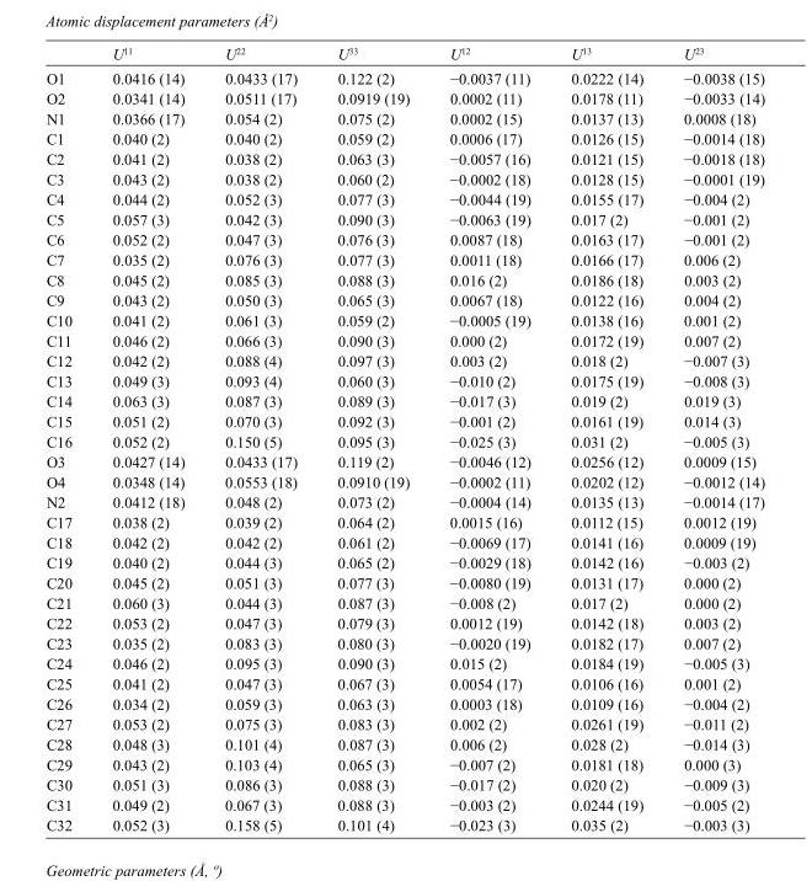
<table><thead><tr><td></td><td>U<sup>11</sup></td><td>U<sup>22</sup></td><td>U<sup>33</sup></td><td>U<sup>12</sup></td><td>U<sup>13</sup></td><td>U<sup>23</sup></td></tr></thead><tbody><tr><td>O1</td><td>0.0416 (14)</td><td>0.0433 (17)</td><td>0.122 (2)</td><td>−0.0037 (11)</td><td>0.0222 (14)</td><td>−0.0038 (15)</td></tr><tr><td>O2</td><td>0.0341 (14)</td><td>0.0511 (17)</td><td>0.0919 (19)</td><td>0.0002 (11)</td><td>0.0178 (11)</td><td>−0.0033 (14)</td></tr><tr><td>N1</td><td>0.0366 (17)</td><td>0.054 (2)</td><td>0.075 (2)</td><td>0.0002 (15)</td><td>0.0137 (13)</td><td>0.0008 (18)</td></tr><tr><td>C1</td><td>0.040 (2)</td><td>0.040 (2)</td><td>0.059 (2)</td><td>0.0006 (17)</td><td>0.0126 (15)</td><td>−0.0014 (18)</td></tr><tr><td>C2</td><td>0.041 (2)</td><td>0.038 (2)</td><td>0.063 (3)</td><td>−0.0057 (16)</td><td>0.0121 (15)</td><td>−0.0018 (18)</td></tr><tr><td>C3</td><td>0.043 (2)</td><td>0.038 (2)</td><td>0.060 (2)</td><td>−0.0002 (18)</td><td>0.0128 (15)</td><td>−0.0001 (19)</td></tr><tr><td>C4</td><td>0.044 (2)</td><td>0.052 (3)</td><td>0.077 (3)</td><td>−0.0044 (19)</td><td>0.0155 (17)</td><td>−0.004 (2)</td></tr><tr><td>C5</td><td>0.057 (3)</td><td>0.042 (3)</td><td>0.090 (3)</td><td>−0.0063 (19)</td><td>0.017 (2)</td><td>−0.001 (2)</td></tr><tr><td>C6</td><td>0.052 (2)</td><td>0.047 (3)</td><td>0.076 (3)</td><td>0.0087 (18)</td><td>0.0163 (17)</td><td>−0.001 (2)</td></tr><tr><td>C7</td><td>0.035 (2)</td><td>0.076 (3)</td><td>0.077 (3)</td><td>0.0011 (18)</td><td>0.0166 (17)</td><td>0.006 (2)</td></tr><tr><td>C8</td><td>0.045 (2)</td><td>0.085 (3)</td><td>0.088 (3)</td><td>0.016 (2)</td><td>0.0186 (18)</td><td>0.003 (2)</td></tr><tr><td>C9</td><td>0.043 (2)</td><td>0.050 (3)</td><td>0.065 (3)</td><td>0.0067 (18)</td><td>0.0122 (16)</td><td>0.004 (2)</td></tr><tr><td>C10</td><td>0.041 (2)</td><td>0.061 (3)</td><td>0.059 (2)</td><td>−0.0005 (19)</td><td>0.0138 (16)</td><td>0.001 (2)</td></tr><tr><td>C11</td><td>0.046 (2)</td><td>0.066 (3)</td><td>0.090 (3)</td><td>0.000 (2)</td><td>0.0172 (19)</td><td>0.007 (2)</td></tr><tr><td>C12</td><td>0.042 (2)</td><td>0.088 (4)</td><td>0.097 (3)</td><td>0.003 (2)</td><td>0.018 (2)</td><td>−0.007 (3)</td></tr><tr><td>C13</td><td>0.049 (3)</td><td>0.093 (4)</td><td>0.060 (3)</td><td>−0.010 (2)</td><td>0.0175 (19)</td><td>−0.008 (3)</td></tr><tr><td>C14</td><td>0.063 (3)</td><td>0.087 (3)</td><td>0.089 (3)</td><td>−0.017 (3)</td><td>0.019 (2)</td><td>0.019 (3)</td></tr><tr><td>C15</td><td>0.051 (2)</td><td>0.070 (3)</td><td>0.092 (3)</td><td>−0.001 (2)</td><td>0.0161 (19)</td><td>0.014 (3)</td></tr><tr><td>C16</td><td>0.052 (2)</td><td>0.150 (5)</td><td>0.095 (3)</td><td>−0.025 (3)</td><td>0.031 (2)</td><td>−0.005 (3)</td></tr><tr><td>O3</td><td>0.0427 (14)</td><td>0.0433 (17)</td><td>0.119 (2)</td><td>−0.0046 (12)</td><td>0.0256 (12)</td><td>0.0009 (15)</td></tr><tr><td>O4</td><td>0.0348 (14)</td><td>0.0553 (18)</td><td>0.0910 (19)</td><td>−0.0002 (11)</td><td>0.0202 (12)</td><td>−0.0012 (14)</td></tr><tr><td>N2</td><td>0.0412 (18)</td><td>0.048 (2)</td><td>0.073 (2)</td><td>−0.0004 (14)</td><td>0.0135 (13)</td><td>−0.0014 (17)</td></tr><tr><td>C17</td><td>0.038 (2)</td><td>0.039 (2)</td><td>0.064 (2)</td><td>0.0015 (16)</td><td>0.0112 (15)</td><td>0.0012 (19)</td></tr><tr><td>C18</td><td>0.042 (2)</td><td>0.042 (2)</td><td>0.061 (2)</td><td>−0.0069 (17)</td><td>0.0141 (16)</td><td>0.0009 (19)</td></tr><tr><td>C19</td><td>0.040 (2)</td><td>0.044 (3)</td><td>0.065 (2)</td><td>−0.0029 (18)</td><td>0.0142 (16)</td><td>−0.003 (2)</td></tr><tr><td>C20</td><td>0.045 (2)</td><td>0.051 (3)</td><td>0.077 (3)</td><td>−0.0080 (19)</td><td>0.0131 (17)</td><td>0.000 (2)</td></tr><tr><td>C21</td><td>0.060 (3)</td><td>0.044 (3)</td><td>0.087 (3)</td><td>−0.008 (2)</td><td>0.017 (2)</td><td>0.000 (2)</td></tr><tr><td>C22</td><td>0.053 (2)</td><td>0.047 (3)</td><td>0.079 (3)</td><td>0.0012 (19)</td><td>0.0142 (18)</td><td>0.003 (2)</td></tr><tr><td>C23</td><td>0.035 (2)</td><td>0.083 (3)</td><td>0.080 (3)</td><td>−0.0020 (19)</td><td>0.0182 (17)</td><td>0.007 (2)</td></tr><tr><td>C24</td><td>0.046 (2)</td><td>0.095 (3)</td><td>0.090 (3)</td><td>0.015 (2)</td><td>0.0184 (19)</td><td>−0.005 (3)</td></tr><tr><td>C25</td><td>0.041 (2)</td><td>0.047 (3)</td><td>0.067 (3)</td><td>0.0054 (17)</td><td>0.0106 (16)</td><td>0.001 (2)</td></tr><tr><td>C26</td><td>0.034 (2)</td><td>0.059 (3)</td><td>0.063 (3)</td><td>0.0003 (18)</td><td>0.0109 (16)</td><td>−0.004 (2)</td></tr><tr><td>C27</td><td>0.053 (2)</td><td>0.075 (3)</td><td>0.083 (3)</td><td>0.002 (2)</td><td>0.0261 (19)</td><td>−0.011 (2)</td></tr><tr><td>C28</td><td>0.048 (3)</td><td>0.101 (4)</td><td>0.087 (3)</td><td>0.006 (2)</td><td>0.028 (2)</td><td>−0.014 (3)</td></tr><tr><td>C29</td><td>0.043 (2)</td><td>0.103 (4)</td><td>0.065 (3)</td><td>−0.007 (2)</td><td>0.0181 (18)</td><td>0.000 (3)</td></tr><tr><td>C30</td><td>0.051 (3)</td><td>0.086 (3)</td><td>0.088 (3)</td><td>−0.017 (2)</td><td>0.020 (2)</td><td>−0.009 (3)</td></tr><tr><td>C31</td><td>0.049 (2)</td><td>0.067 (3)</td><td>0.088 (3)</td><td>−0.003 (2)</td><td>0.0244 (19)</td><td>−0.005 (2)</td></tr><tr><td>C32</td><td>0.052 (3)</td><td>0.158 (5)</td><td>0.101 (4)</td><td>−0.023 (3)</td><td>0.035 (2)</td><td>−0.003 (3)</td></tr></tbody></table>